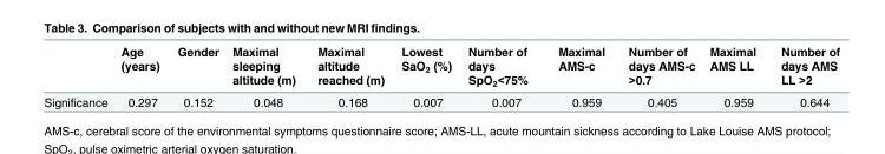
<table><thead><tr><td></td><td>Age (years)</td><td>Gender</td><td>Maximal sleeping altitude (m)</td><td>Maximal altitude reached (m)</td><td>Lowest SaO<sub>2</sub> (%)</td><td>Number of days SpO<sub>2</sub>&lt;75%</td><td>Maximal AMS-c</td><td>Number of days AMS-c &gt;0.7</td><td>Maximal AMS LL</td><td>Number of days AMS LL &gt;2</td></tr></thead><tbody><tr><td>Significance</td><td>0.297</td><td>0.152</td><td>0.048</td><td>0.168</td><td>0.007</td><td>0.007</td><td>0.959</td><td>0.405</td><td>0.959</td><td>0.644</td></tr></tbody></table>